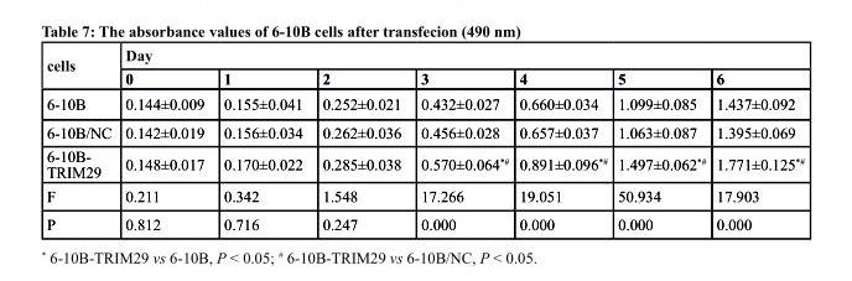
<table><thead><tr><td rowspan="2">cells</td><td colspan="7">Day</td></tr><tr><td>0</td><td>1</td><td>2</td><td>3</td><td>4</td><td>5</td><td>6</td></tr></thead><tbody><tr><td>6-10B</td><td>0.144±0.009</td><td>0.155±0.041</td><td>0.252±0.021</td><td>0.432±0.027</td><td>0.660±0.034</td><td>1.099±0.085</td><td>1.437±0.092</td></tr><tr><td>6-10B/NC</td><td>0.142±0.019</td><td>0.156±0.034</td><td>0.262±0.036</td><td>0.456±0.028</td><td>0.657±0.037</td><td>1.063±0.087</td><td>1.395±0.069</td></tr><tr><td>6-10B- TRIM29</td><td>0.148±0.017</td><td>0.170±0.022</td><td>0.285±0.038</td><td>0.570±0.064*#</td><td>0.891±0.096*#</td><td>1.497±0.062*#</td><td>1.771±0.125*#</td></tr><tr><td>F</td><td>0.211</td><td>0.342</td><td>1.548</td><td>17.266</td><td>19.051</td><td>50.934</td><td>17.903</td></tr><tr><td>P</td><td>0.812</td><td>0.716</td><td>0.247</td><td>0.000</td><td>0.000</td><td>0.000</td><td>0.000</td></tr></tbody></table>